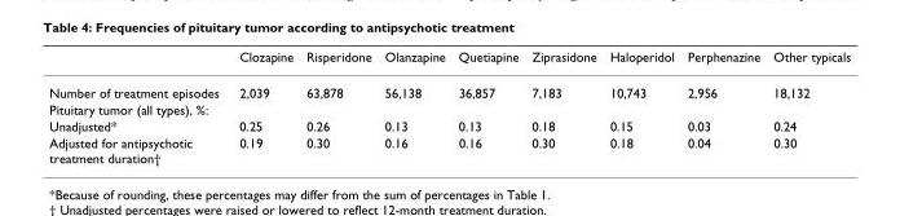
<table><thead><tr><td></td><td>Clozapine</td><td>Risperidone</td><td>Olanzapine</td><td>Quetiapine</td><td>Ziprasidone</td><td>Haloperidol</td><td>Perphenazine</td><td>Other typicals</td></tr></thead><tbody><tr><td>Number of treatment episodes</td><td>2,039</td><td>63,878</td><td>56,138</td><td>36,857</td><td>7,183</td><td>10,743</td><td>2,956</td><td>18,132</td></tr><tr><td colspan="9">Pituitary tumor (all types), %:</td></tr><tr><td>Unadjusted*</td><td>0.25</td><td>0.26</td><td>0.13</td><td>0.13</td><td>0.18</td><td>0.15</td><td>0.03</td><td>0.24</td></tr><tr><td>Adjusted for antipsychotic treatment duration†</td><td>0.19</td><td>0.30</td><td>0.16</td><td>0.16</td><td>0.30</td><td>0.18</td><td>0.04</td><td>0.30</td></tr></tbody></table>